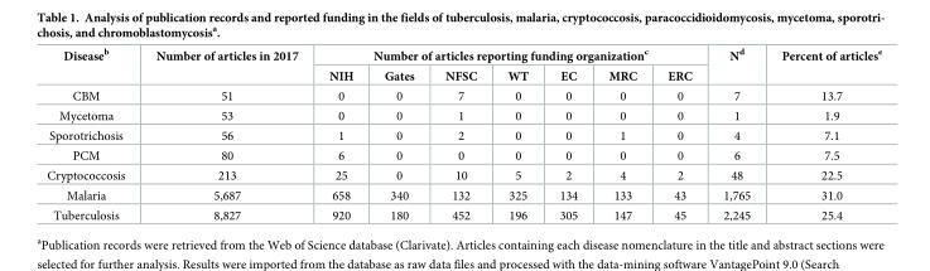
<table><thead><tr><td rowspan="2">Disease<sup>b</sup></td><td rowspan="2">Number of articles in 2017</td><td colspan="7">Number of articles reporting funding organization<sup>c</sup></td><td rowspan="2">N<sup>d</sup></td><td rowspan="2">Percent of articles<sup>e</sup></td></tr><tr><td>NIH</td><td>Gates</td><td>NFSC</td><td>WT</td><td>EC</td><td>MRC</td><td>ERC</td></tr></thead><tbody><tr><td>CBM</td><td>51</td><td>0</td><td>0</td><td>7</td><td>0</td><td>0</td><td>0</td><td>0</td><td>7</td><td>13.7</td></tr><tr><td>Mycetoma</td><td>53</td><td>0</td><td>0</td><td>1</td><td>0</td><td>0</td><td>0</td><td>0</td><td>1</td><td>1.9</td></tr><tr><td>Sporotrichosis</td><td>56</td><td>1</td><td>0</td><td>2</td><td>0</td><td>0</td><td>1</td><td>0</td><td>4</td><td>7.1</td></tr><tr><td>PCM</td><td>80</td><td>6</td><td>0</td><td>0</td><td>0</td><td>0</td><td>0</td><td>0</td><td>6</td><td>7.5</td></tr><tr><td>Cryptococcosis</td><td>213</td><td>25</td><td>0</td><td>10</td><td>5</td><td>2</td><td>4</td><td>2</td><td>48</td><td>22.5</td></tr><tr><td>Malaria</td><td>5,687</td><td>658</td><td>340</td><td>132</td><td>325</td><td>134</td><td>133</td><td>43</td><td>1,765</td><td>31.0</td></tr><tr><td>Tuberculosis</td><td>8,827</td><td>920</td><td>180</td><td>452</td><td>196</td><td>305</td><td>147</td><td>45</td><td>2,245</td><td>25.4</td></tr></tbody></table>